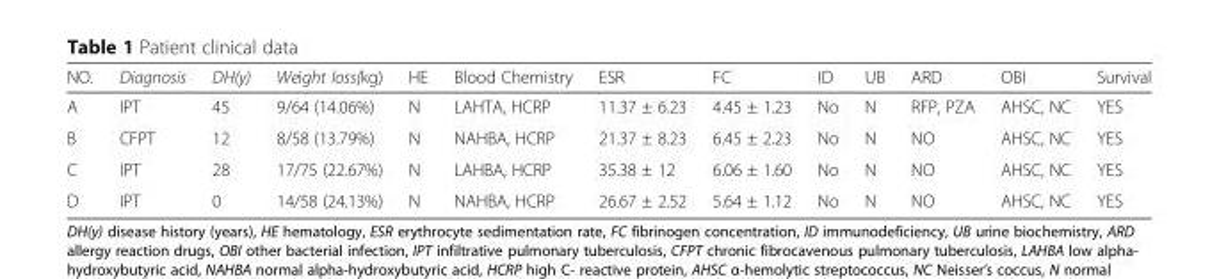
<table><thead><tr><td>NO.</td><td>Diagnosis</td><td>DH(y)</td><td>Weight loss(kg)</td><td>HE</td><td>Blood Chemistry</td><td>ESR</td><td>FC</td><td>ID</td><td>UB</td><td>ARD</td><td>OBI</td><td>Survival</td></tr></thead><tbody><tr><td>A</td><td>IPT</td><td>45</td><td>9/64 (14.06%)</td><td>N</td><td>LAHTA, HCRP</td><td>11.37 ± 6.23</td><td>4.45 ± 1.23</td><td>No</td><td>N</td><td>RFP, PZA</td><td>AHSC, NC</td><td>YES</td></tr><tr><td>B</td><td>CFPT</td><td>12</td><td>8/58 (13.79%)</td><td>N</td><td>NAHBA, HCRP</td><td>21.37 ± 8.23</td><td>6.45 ± 2.23</td><td>No</td><td>N</td><td>NO</td><td>AHSC, NC</td><td>YES</td></tr><tr><td>C</td><td>IPT</td><td>28</td><td>17/75 (22.67%)</td><td>N</td><td>LAHBA, HCRP</td><td>35.38 ± 12</td><td>6.06 ± 1.60</td><td>No</td><td>N</td><td>NO</td><td>AHSC, NC</td><td>YES</td></tr><tr><td>D</td><td>IPT</td><td>0</td><td>14/58 (24.13%)</td><td>N</td><td>NAHBA, HCRP</td><td>26.67 ± 2.52</td><td>5.64 ± 1.12</td><td>No</td><td>N</td><td>NO</td><td>AHSC, NC</td><td>YES</td></tr></tbody></table>